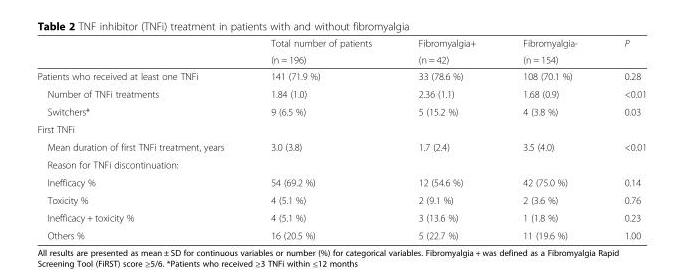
<table><thead><tr><td rowspan="2"></td><td rowspan="2">Total number of patients (n = 196)</td><td rowspan="2">Fibromyalgia+ (n = 42)</td><td rowspan="2">Fibromyalgia- (n = 154)</td><td rowspan="2">P</td></tr><tr></tr></thead><tbody><tr><td>Patients who received at least one TNFi</td><td>141 (71.9 %)</td><td>33 (78.6 %)</td><td>108 (70.1 %)</td><td>0.28</td></tr><tr><td>Number of TNFi treatments</td><td>1.84 (1.0)</td><td>2.36 (1.1)</td><td>1.68 (0.9)</td><td>&lt;0.01</td></tr><tr><td>Switchers*</td><td>9 (6.5 %)</td><td>5 (15.2 %)</td><td>4 (3.8 %)</td><td>0.03</td></tr><tr><td colspan="5">First TNFi</td></tr><tr><td>Mean duration of first TNFi treatment, years</td><td>3.0 (3.8)</td><td>1.7 (2.4)</td><td>3.5 (4.0)</td><td>&lt;0.01</td></tr><tr><td colspan="5">Reason for TNFi discontinuation:</td></tr><tr><td>Inefficacy %</td><td>54 (69.2 %)</td><td>12 (54.6 %)</td><td>42 (75.0 %)</td><td>0.14</td></tr><tr><td>Toxicity %</td><td>4 (5.1 %)</td><td>2 (9.1 %)</td><td>2 (3.6 %)</td><td>0.76</td></tr><tr><td>Inefficacy + toxicity %</td><td>4 (5.1 %)</td><td>3 (13.6 %)</td><td>1 (1.8 %)</td><td>0.23</td></tr><tr><td>Others %</td><td>16 (20.5 %)</td><td>5 (22.7 %)</td><td>11 (19.6 %)</td><td>1.00</td></tr></tbody></table>